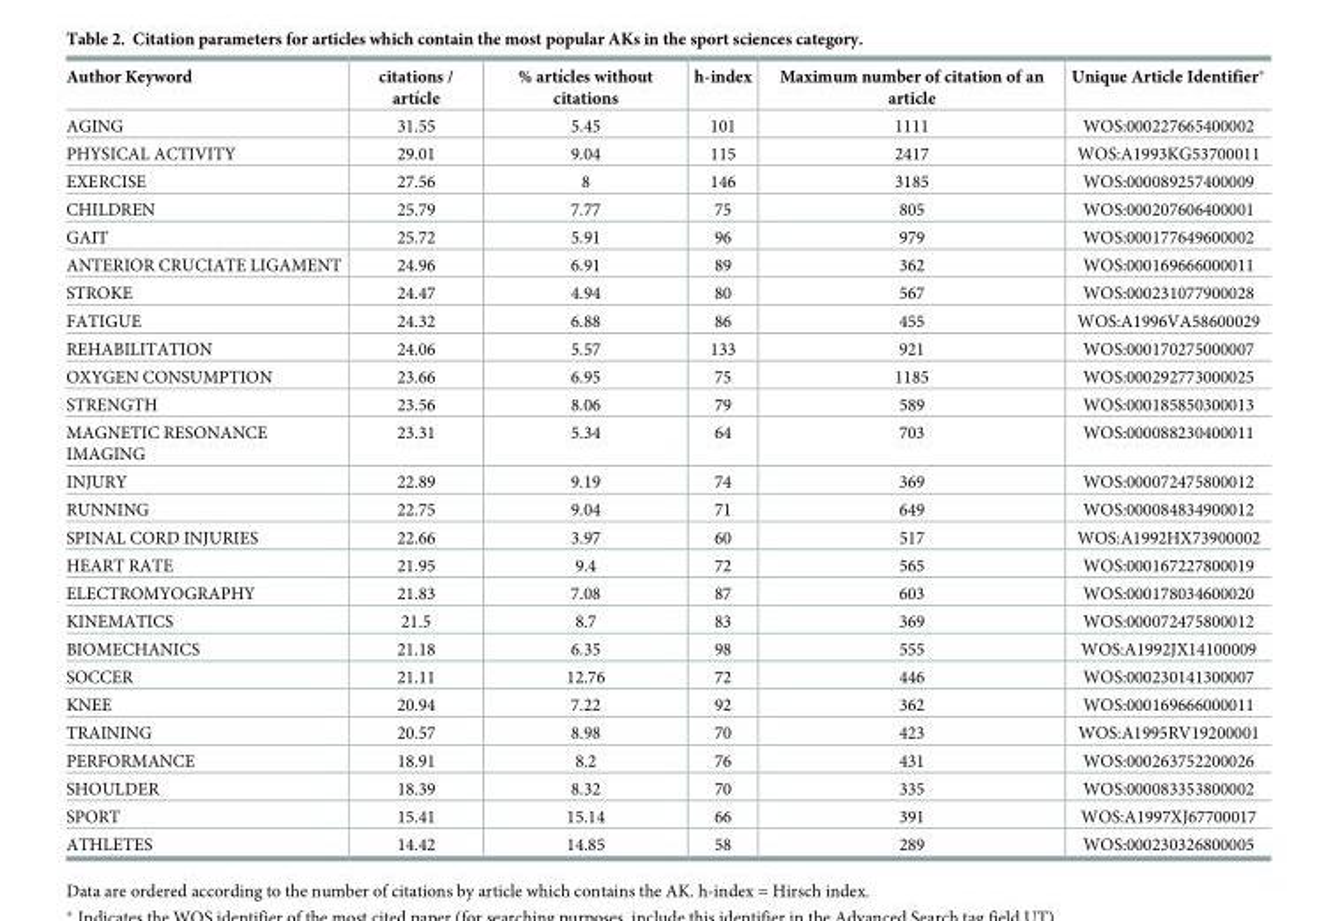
<table><thead><tr><td>Author Keyword</td><td>citations / artı´cle</td><td>% artı´cles without citations</td><td>h-index</td><td>Maximum number of citation of an article</td><td>Unique Article Identifier*</td></tr></thead><tbody><tr><td>AGING</td><td>31.55</td><td>5.45</td><td>101</td><td>1111</td><td>WOS:000227665400002</td></tr><tr><td>PHYSICAL ACTIVITY</td><td>29.01</td><td>9.04</td><td>115</td><td>2417</td><td>WOS:A1993KG53700011</td></tr><tr><td>EXERCISE</td><td>27.56</td><td>8</td><td>146</td><td>3185</td><td>WOS:000089257400009</td></tr><tr><td>CHILDREN</td><td>25.79</td><td>7.77</td><td>75</td><td>805</td><td>WOS:000207606400001</td></tr><tr><td>GAIT</td><td>25.72</td><td>5.91</td><td>96</td><td>979</td><td>WOS:000177649600002</td></tr><tr><td>ANTERIOR CRUCIATE LIGAMENT</td><td>24.96</td><td>6.91</td><td>89</td><td>362</td><td>WOS:000169666000011</td></tr><tr><td>STROKE</td><td>24.47</td><td>4.94</td><td>80</td><td>567</td><td>WOS:000231077900028</td></tr><tr><td>FATIGUE</td><td>24.32</td><td>6.88</td><td>86</td><td>455</td><td>WOS:A1996VA58600029</td></tr><tr><td>REHABILITATION</td><td>24.06</td><td>5.57</td><td>133</td><td>921</td><td>WOS:000170275000007</td></tr><tr><td>OXYGEN CONSUMPTION</td><td>23.66</td><td>6.95</td><td>75</td><td>1185</td><td>WOS:000292773000025</td></tr><tr><td>STRENGTH</td><td>23.56</td><td>8.06</td><td>79</td><td>589</td><td>WOS:000185850300013</td></tr><tr><td>MAGNETIC RESONANCE IMAGING</td><td>23.31</td><td>5.34</td><td>64</td><td>703</td><td>WOS:000088230400011</td></tr><tr><td>INJURY</td><td>22.89</td><td>9.19</td><td>74</td><td>369</td><td>WOS:000072475800012</td></tr><tr><td>RUNNING</td><td>22.75</td><td>9.04</td><td>71</td><td>649</td><td>WOS:000084834900012</td></tr><tr><td>SPINAL CORD INJURIES</td><td>22.66</td><td>3.97</td><td>60</td><td>517</td><td>WOS:A1992HX73900002</td></tr><tr><td>HEART RATE</td><td>21.95</td><td>9.4</td><td>72</td><td>565</td><td>WOS:000167227800019</td></tr><tr><td>ELECTROMYOGRAPHY</td><td>21.83</td><td>7.08</td><td>87</td><td>603</td><td>WOS:000178034600020</td></tr><tr><td>KINEMATICS</td><td>21.5</td><td>8.7</td><td>83</td><td>369</td><td>WOS:000072475800012</td></tr><tr><td>BIOMECHANICS</td><td>21.18</td><td>6.35</td><td>98</td><td>555</td><td>WOS:A1992JX14100009</td></tr><tr><td>SOCCER</td><td>21.11</td><td>12.76</td><td>72</td><td>446</td><td>WOS:000230141300007</td></tr><tr><td>KNEE</td><td>20.94</td><td>7.22</td><td>92</td><td>362</td><td>WOS:000169666000011</td></tr><tr><td>TRAINING</td><td>20.57</td><td>8.98</td><td>70</td><td>423</td><td>WOS:A1995RV19200001</td></tr><tr><td>PERFORMANCE</td><td>18.91</td><td>8.2</td><td>76</td><td>431</td><td>WOS:000263752200026</td></tr><tr><td>SHOULDER</td><td>18.39</td><td>8.32</td><td>70</td><td>335</td><td>WOS:000083353800002</td></tr><tr><td>SPORT</td><td>15.41</td><td>15.14</td><td>66</td><td>391</td><td>WOS:A1997XJ67700017</td></tr><tr><td>ATHLETES</td><td>14.42</td><td>14.85</td><td>58</td><td>289</td><td>WOS:000230326800005</td></tr></tbody></table>